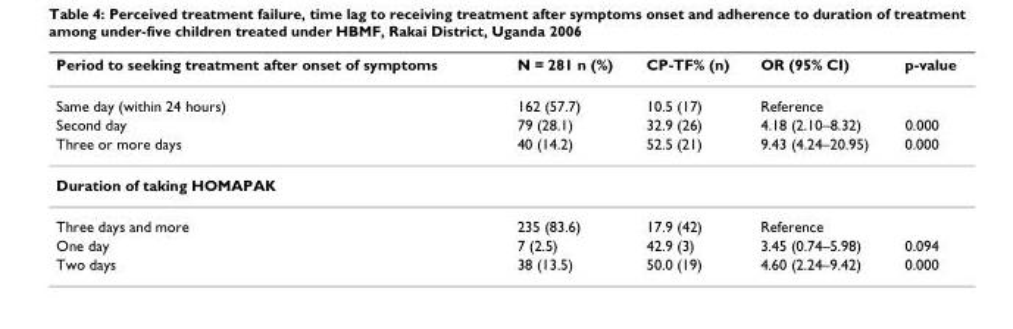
<table><thead><tr><td>Period to seeking treatment after onset of symptoms</td><td>N = 281 n (%)</td><td>CP-TF% (n)</td><td>OR (95% CI)</td><td>p-value</td></tr></thead><tbody><tr><td>Same day (within 24 hours)</td><td>162 (57.7)</td><td>10.5 (17)</td><td>Reference</td><td></td></tr><tr><td>Second day</td><td>79 (28.1)</td><td>32.9 (26)</td><td>4.18 (2.10–8.32)</td><td>0.000</td></tr><tr><td>Three or more days</td><td>40 (14.2)</td><td>52.5 (21)</td><td>9.43 (4.24–20.95)</td><td>0.000</td></tr><tr><td colspan="5">Duration of taking HOMAPAK</td></tr><tr><td>Three days and more</td><td>235 (83.6)</td><td>17.9 (42)</td><td>Reference</td><td></td></tr><tr><td>One day</td><td>7 (2.5)</td><td>42.9 (3)</td><td>3.45 (0.74–5.98)</td><td>0.094</td></tr><tr><td>Two days</td><td>38 (13.5)</td><td>50.0 (19)</td><td>4.60 (2.24–9.42)</td><td>0.000</td></tr></tbody></table>